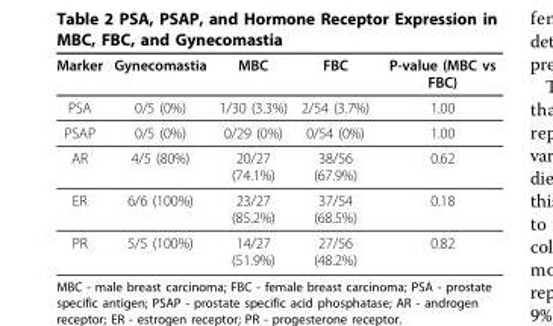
<table><thead><tr><td>Marker</td><td>Gynecomastia</td><td>MBC</td><td>FBC</td><td>P-value (MBC vs FBC)</td></tr></thead><tbody><tr><td>PSA</td><td>0/5 (0%)</td><td>1/30 (3.3%)</td><td>2/54 (3.7%)</td><td>1.00</td></tr><tr><td>PSAP</td><td>0/5 (0%)</td><td>0/29 (0%)</td><td>0/54 (0%)</td><td>1.00</td></tr><tr><td>AR</td><td>4/5 (80%)</td><td>20/27 (74.1%)</td><td>38/56 (67.9%)</td><td>0.62</td></tr><tr><td>ER</td><td>6/6 (100%)</td><td>23/27 (85.2%)</td><td>37/54 (68.5%)</td><td>0.18</td></tr><tr><td>PR</td><td>5/5 (100%)</td><td>14/27 (51.9%)</td><td>27/56 (48.2%)</td><td>0.82</td></tr></tbody></table>